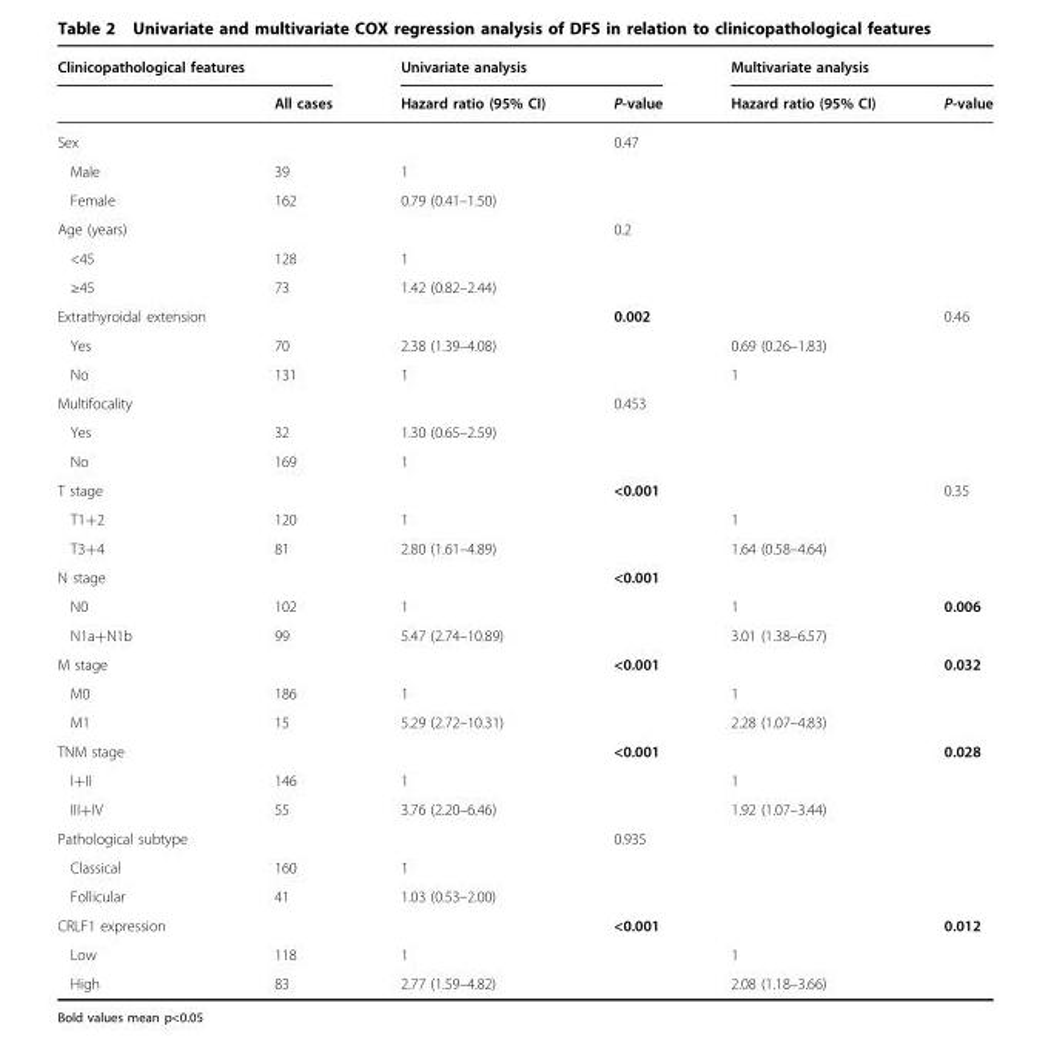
<table><thead><tr><td colspan="2">Clinicopathological features</td><td colspan="2">Univariate analysis</td><td colspan="2">Multivariate analysis</td></tr><tr><td></td><td>All cases</td><td>Hazard ratio (95% CI)</td><td>P-value</td><td>Hazard ratio (95% CI)</td><td>P-value</td></tr></thead><tbody><tr><td>Sex</td><td></td><td></td><td>0.47</td><td></td><td></td></tr><tr><td>Male</td><td>39</td><td>1</td><td></td><td></td><td></td></tr><tr><td>Female</td><td>162</td><td>0.79 (0.41–1.50)</td><td></td><td></td><td></td></tr><tr><td>Age (years)</td><td></td><td></td><td>0.2</td><td></td><td></td></tr><tr><td>&lt;45</td><td>128</td><td>1</td><td></td><td></td><td></td></tr><tr><td>≥45</td><td>73</td><td>1.42 (0.82–2.44)</td><td></td><td></td><td></td></tr><tr><td>Extrathyroidal extension</td><td></td><td></td><td>0.002</td><td></td><td>0.46</td></tr><tr><td>Yes</td><td>70</td><td>2.38 (1.39–4.08)</td><td></td><td>0.69 (0.26–1.83)</td><td></td></tr><tr><td>No</td><td>131</td><td>1</td><td></td><td>1</td><td></td></tr><tr><td>Multifocality</td><td></td><td></td><td>0.453</td><td></td><td></td></tr><tr><td>Yes</td><td>32</td><td>1.30 (0.65–2.59)</td><td></td><td></td><td></td></tr><tr><td>No</td><td>169</td><td>1</td><td></td><td></td><td></td></tr><tr><td>T stage</td><td></td><td></td><td>&lt;0.001</td><td></td><td>0.35</td></tr><tr><td>T1+2</td><td>120</td><td>1</td><td></td><td>1</td><td></td></tr><tr><td>T3+4</td><td>81</td><td>2.80 (1.61–4.89)</td><td></td><td>1.64 (0.58–4.64)</td><td></td></tr><tr><td>N stage</td><td></td><td></td><td>&lt;0.001</td><td></td><td></td></tr><tr><td>N0</td><td>102</td><td>1</td><td></td><td>1</td><td>0.006</td></tr><tr><td>N1a+N1b</td><td>99</td><td>5.47 (2.74–10.89)</td><td></td><td>3.01 (1.38–6.57)</td><td></td></tr><tr><td>M stage</td><td></td><td></td><td>&lt;0.001</td><td></td><td>0.032</td></tr><tr><td>M0</td><td>186</td><td>1</td><td></td><td>1</td><td></td></tr><tr><td>M1</td><td>15</td><td>5.29 (2.72–10.31)</td><td></td><td>2.28 (1.07–4.83)</td><td></td></tr><tr><td>TNM stage</td><td></td><td></td><td>&lt;0.001</td><td></td><td>0.028</td></tr><tr><td>I+II</td><td>146</td><td>1</td><td></td><td>1</td><td></td></tr><tr><td>III+IV</td><td>55</td><td>3.76 (2.20–6.46)</td><td></td><td>1.92 (1.07–3.44)</td><td></td></tr><tr><td>Pathological subtype</td><td></td><td></td><td>0.935</td><td></td><td></td></tr><tr><td>Classical</td><td>160</td><td>1</td><td></td><td></td><td></td></tr><tr><td>Follicular</td><td>41</td><td>1.03 (0.53–2.00)</td><td></td><td></td><td></td></tr><tr><td>CRLF1 expression</td><td></td><td></td><td>&lt;0.001</td><td></td><td>0.012</td></tr><tr><td>Low</td><td>118</td><td>1</td><td></td><td>1</td><td></td></tr><tr><td>High</td><td>83</td><td>2.77 (1.59–4.82)</td><td></td><td>2.08 (1.18–3.66)</td><td></td></tr></tbody></table>